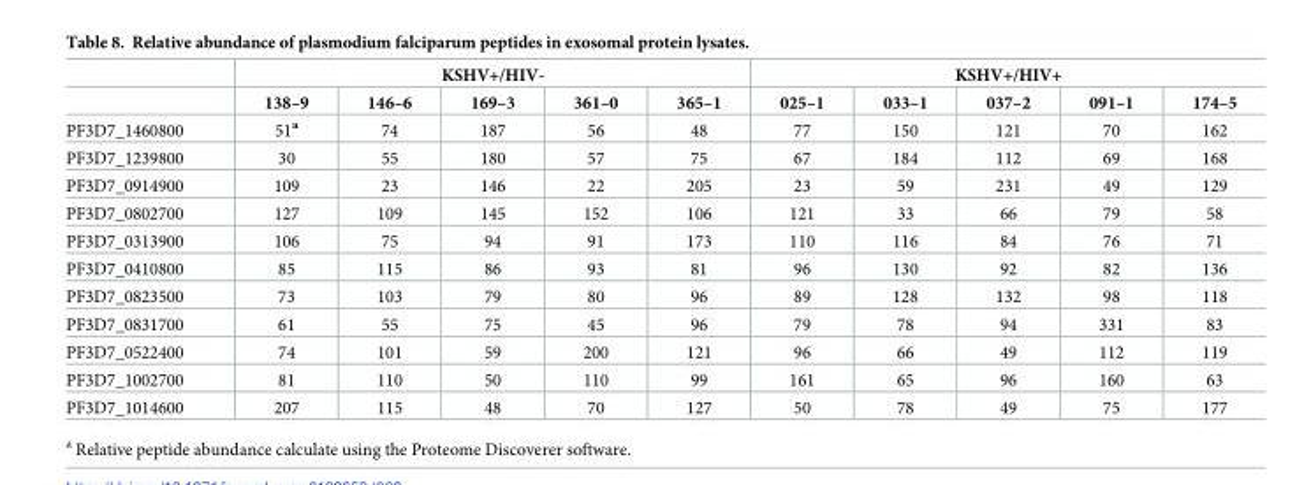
<table><thead><tr><td rowspan="2"></td><td colspan="5">KSHV+/HIV-</td><td colspan="5">KSHV+/HIV+</td></tr><tr><td>138–9</td><td>146–6</td><td>169–3</td><td>361–0</td><td>365–1</td><td>025–1</td><td>033–1</td><td>037–2</td><td>091–1</td><td>174–5</td></tr></thead><tbody><tr><td>PF3D7_1460800</td><td>51<sup>a</sup></td><td>74</td><td>187</td><td>56</td><td>48</td><td>77</td><td>150</td><td>121</td><td>70</td><td>162</td></tr><tr><td>PF3D7_1239800</td><td>30</td><td>55</td><td>180</td><td>57</td><td>75</td><td>67</td><td>184</td><td>112</td><td>69</td><td>168</td></tr><tr><td>PF3D7_0914900</td><td>109</td><td>23</td><td>146</td><td>22</td><td>205</td><td>23</td><td>59</td><td>231</td><td>49</td><td>129</td></tr><tr><td>PF3D7_0802700</td><td>127</td><td>109</td><td>145</td><td>152</td><td>106</td><td>121</td><td>33</td><td>66</td><td>79</td><td>58</td></tr><tr><td>PF3D7_0313900</td><td>106</td><td>75</td><td>94</td><td>91</td><td>173</td><td>110</td><td>116</td><td>84</td><td>76</td><td>71</td></tr><tr><td>PF3D7_0410800</td><td>85</td><td>115</td><td>86</td><td>93</td><td>81</td><td>96</td><td>130</td><td>92</td><td>82</td><td>136</td></tr><tr><td>PF3D7_0823500</td><td>73</td><td>103</td><td>79</td><td>80</td><td>96</td><td>89</td><td>128</td><td>132</td><td>98</td><td>118</td></tr><tr><td>PF3D7_0831700</td><td>61</td><td>55</td><td>75</td><td>45</td><td>96</td><td>79</td><td>78</td><td>94</td><td>331</td><td>83</td></tr><tr><td>PF3D7_0522400</td><td>74</td><td>101</td><td>59</td><td>200</td><td>121</td><td>96</td><td>66</td><td>49</td><td>112</td><td>119</td></tr><tr><td>PF3D7_1002700</td><td>81</td><td>110</td><td>50</td><td>110</td><td>99</td><td>161</td><td>65</td><td>96</td><td>160</td><td>63</td></tr><tr><td>PF3D7_1014600</td><td>207</td><td>115</td><td>48</td><td>70</td><td>127</td><td>50</td><td>78</td><td>49</td><td>75</td><td>177</td></tr></tbody></table>